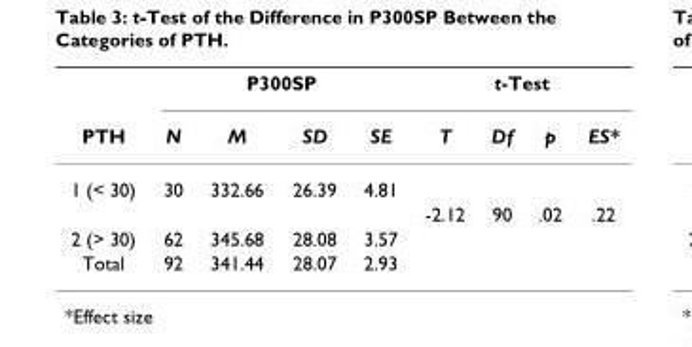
<table><thead><tr><td rowspan="2">PTH</td><td colspan="4">P300SP</td><td colspan="4">t-Test</td></tr><tr><td>N</td><td>M</td><td>SD</td><td>SE</td><td>T</td><td>Df</td><td>p</td><td>ES*</td></tr></thead><tbody><tr><td rowspan="2">1 (&lt; 30)</td><td>30</td><td>332.66</td><td>26.39</td><td>4.81</td><td></td><td></td><td></td><td></td></tr><tr><td></td><td></td><td></td><td></td><td>-2.12</td><td>90</td><td>.02</td><td>.22</td></tr><tr><td>2 (&gt; 30)</td><td>62</td><td>345.68</td><td>28.08</td><td>3.57</td><td></td><td></td><td></td><td></td></tr><tr><td>Total</td><td>92</td><td>341.44</td><td>28.07</td><td>2.93</td><td></td><td></td><td></td><td></td></tr></tbody></table>